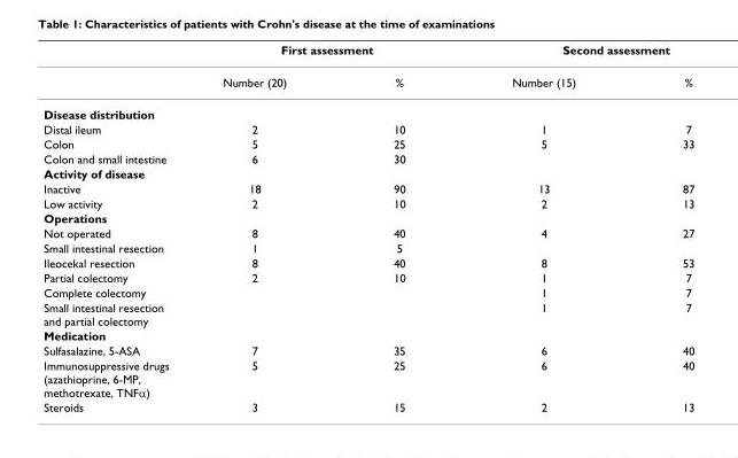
<table><thead><tr><td rowspan="2"></td><td colspan="2">First assessment</td><td colspan="2">Second assessment</td></tr><tr><td>Number (20)</td><td>%</td><td>Number (15)</td><td>%</td></tr></thead><tbody><tr><td colspan="5">Disease distribution</td></tr><tr><td>Distal ileum</td><td>2</td><td>10</td><td>1</td><td>7</td></tr><tr><td>Colon</td><td>5</td><td>25</td><td>5</td><td>33</td></tr><tr><td>Colon and small intestine</td><td>6</td><td>30</td><td></td><td></td></tr><tr><td colspan="5">Activity of disease</td></tr><tr><td>Inactive</td><td>18</td><td>90</td><td>13</td><td>87</td></tr><tr><td>Low activity</td><td>2</td><td>10</td><td>2</td><td>13</td></tr><tr><td colspan="5">Operations</td></tr><tr><td>Not operated</td><td>8</td><td>40</td><td>4</td><td>27</td></tr><tr><td>Small intestinal resection</td><td>1</td><td>5</td><td></td><td></td></tr><tr><td>Ileocekal resection</td><td>8</td><td>40</td><td>8</td><td>53</td></tr><tr><td>Partial colectomy</td><td>2</td><td>10</td><td>1</td><td>7</td></tr><tr><td>Complete colectomy</td><td></td><td></td><td>1</td><td>7</td></tr><tr><td>Small intestinal resection and partial colectomy</td><td></td><td></td><td>1</td><td>7</td></tr><tr><td colspan="5">Medication</td></tr><tr><td>Sulfasalazine, 5-ASA</td><td>7</td><td>35</td><td>6</td><td>40</td></tr><tr><td>Immunosuppressive drugs (azathioprine, 6-MP, methotrexate, TNFα)</td><td>5</td><td>25</td><td>6</td><td>40</td></tr><tr><td>Steroids</td><td>3</td><td>15</td><td>2</td><td>13</td></tr></tbody></table>